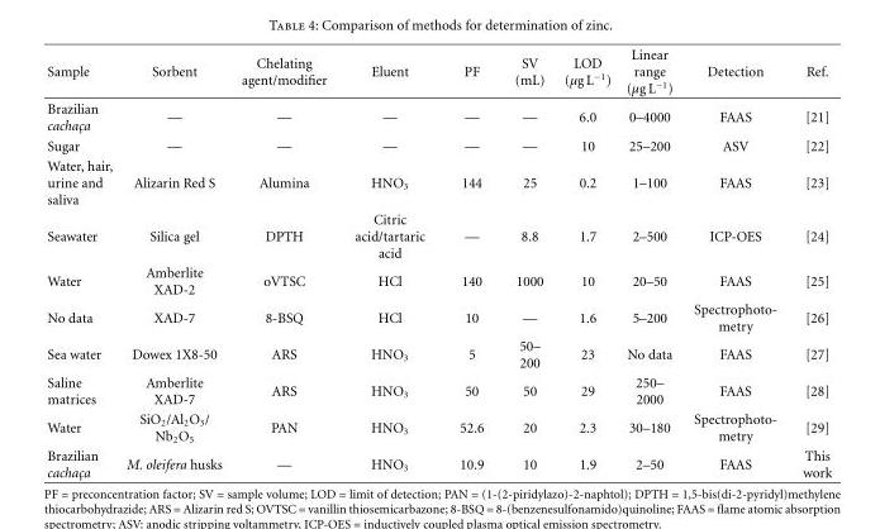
<table><thead><tr><td>Sample</td><td>Sorbent</td><td>Chelating agent/modifier</td><td>Eluent</td><td>PF</td><td>SV (mL)</td><td>LOD (μg L<sup>−1</sup>)</td><td>Linear range (μg L<sup>−1</sup>)</td><td>Detection</td><td>Ref.</td></tr></thead><tbody><tr><td>Brazilian cachac¸a</td><td>—</td><td>—</td><td>—</td><td>—</td><td>—</td><td>6.0</td><td>0–4000</td><td>FAAS</td><td>[21]</td></tr><tr><td>Sugar</td><td>—</td><td>—</td><td>—</td><td>—</td><td>—</td><td>10</td><td>25–200</td><td>ASV</td><td>[22]</td></tr><tr><td>Water, hair, urine and saliva</td><td>Alizarin Red S</td><td>Alumina</td><td>HNO<sub>3</sub></td><td>144</td><td>25</td><td>0.2</td><td>1–100</td><td>FAAS</td><td>[23]</td></tr><tr><td>Seawater</td><td>Silica gel</td><td>DPTH</td><td>Citric acid/tartaric acid</td><td>—</td><td>8.8</td><td>1.7</td><td>2–500</td><td>ICP-OES</td><td>[24]</td></tr><tr><td>Water</td><td>Amberlite XAD-2</td><td>oVTSC</td><td>HCl</td><td>140</td><td>1000</td><td>10</td><td>20–50</td><td>FAAS</td><td>[25]</td></tr><tr><td>No data</td><td>XAD-7</td><td>8-BSQ</td><td>HCl</td><td>10</td><td>—</td><td>1.6</td><td>5–200</td><td>Spectrophoto- metry</td><td>[26]</td></tr><tr><td>Sea water</td><td>Dowex 1X8-50</td><td>ARS</td><td>HNO<sub>3</sub></td><td>5</td><td>50– 200</td><td>23</td><td>No data</td><td>FAAS</td><td>[27]</td></tr><tr><td>Saline matrices</td><td>Amberlite XAD-7</td><td>ARS</td><td>HNO<sub>3</sub></td><td>50</td><td>50</td><td>29</td><td>250– 2000</td><td>FAAS</td><td>[28]</td></tr><tr><td>Water</td><td>SiO<sub>2</sub>/Al<sub>2</sub>O<sub>3</sub>/ Nb<sub>2</sub>O<sub>5</sub></td><td>PAN</td><td>HNO<sub>3</sub></td><td>52.6</td><td>20</td><td>2.3</td><td>30–180</td><td>Spectrophoto- metry</td><td>[29]</td></tr><tr><td>Brazilian cachac¸a</td><td>M. oleifera husks</td><td>—</td><td>HNO<sub>3</sub></td><td>10.9</td><td>10</td><td>1.9</td><td>2–50</td><td>FAAS</td><td>This work</td></tr></tbody></table>